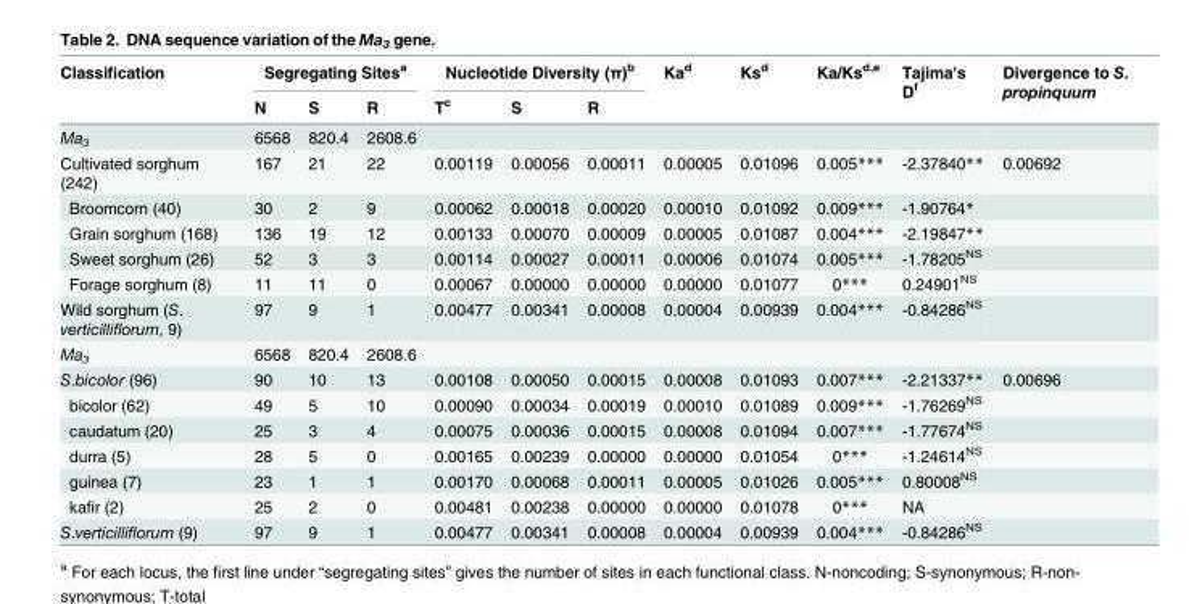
<table><thead><tr><td rowspan="2">Classification</td><td colspan="3">Segregating Sites<sup>a</sup></td><td colspan="3">Nucleotide Diversity (π)<sup>b</sup></td><td rowspan="2">Ka<sup>d</sup></td><td rowspan="2">Ks<sup>d</sup></td><td rowspan="2">Ka/Ks<sup>d,e</sup></td><td rowspan="2">Tajima&#x27;s D<sup>f</sup></td><td rowspan="2">Divergence to S. propinquum</td></tr><tr><td>N</td><td>S</td><td>R</td><td>T<sup>c</sup></td><td>S</td><td>R</td></tr></thead><tbody><tr><td>Ma<sub>3</sub></td><td>6568</td><td>820.4</td><td>2608.6</td><td></td><td></td><td></td><td></td><td></td><td></td><td></td><td></td></tr><tr><td>Cultivated sorghum (242)</td><td>167</td><td>21</td><td>22</td><td>0.00119</td><td>0.00056</td><td>0.00011</td><td>0.00005</td><td>0.01096</td><td>0.005***</td><td>-2.37840**</td><td>0.00692</td></tr><tr><td>Broomcorn (40)</td><td>30</td><td>2</td><td>9</td><td>0.00062</td><td>0.00018</td><td>0.00020</td><td>0.00010</td><td>0.01092</td><td>0.009***</td><td>-1.90764*</td><td></td></tr><tr><td>Grain sorghum (168)</td><td>136</td><td>19</td><td>12</td><td>0.00133</td><td>0.00070</td><td>0.00009</td><td>0.00005</td><td>0.01087</td><td>0.004***</td><td>-2.19847**</td><td></td></tr><tr><td>Sweet sorghum (26)</td><td>52</td><td>3</td><td>3</td><td>0.00114</td><td>0.00027</td><td>0.00011</td><td>0.00006</td><td>0.01074</td><td>0.005***</td><td>-1.78205<sup>NS</sup></td><td></td></tr><tr><td>Forage sorghum (8)</td><td>11</td><td>11</td><td>0</td><td>0.00067</td><td>0.00000</td><td>0.00000</td><td>0.00000</td><td>0.01077</td><td>0***</td><td>0.24901<sup>NS</sup></td><td></td></tr><tr><td>Wild sorghum (S. verticilliflorum, 9)</td><td>97</td><td>9</td><td>1</td><td>0.00477</td><td>0.00341</td><td>0.00008</td><td>0.00004</td><td>0.00939</td><td>0.004***</td><td>-0.84286<sup>NS</sup></td><td></td></tr><tr><td>Ma<sub>3</sub></td><td>6568</td><td>820.4</td><td>2608.6</td><td></td><td></td><td></td><td></td><td></td><td></td><td></td><td></td></tr><tr><td>S.bicolor (96)</td><td>90</td><td>10</td><td>13</td><td>0.00108</td><td>0.00050</td><td>0.00015</td><td>0.00008</td><td>0.01093</td><td>0.007***</td><td>-2.21337**</td><td>0.00696</td></tr><tr><td>bicolor (62)</td><td>49</td><td>5</td><td>10</td><td>0.00090</td><td>0.00034</td><td>0.00019</td><td>0.00010</td><td>0.01089</td><td>0.009***</td><td>-1.76269<sup>NS</sup></td><td></td></tr><tr><td>caudatum (20)</td><td>25</td><td>3</td><td>4</td><td>0.00075</td><td>0.00036</td><td>0.00015</td><td>0.00008</td><td>0.01094</td><td>0.007***</td><td>-1.77674<sup>NS</sup></td><td></td></tr><tr><td>durra (5)</td><td>28</td><td>5</td><td>0</td><td>0.00165</td><td>0.00239</td><td>0.00000</td><td>0.00000</td><td>0.01054</td><td>0***</td><td>-1.24614<sup>NS</sup></td><td></td></tr><tr><td>guinea (7)</td><td>23</td><td>1</td><td>1</td><td>0.00170</td><td>0.00068</td><td>0.00011</td><td>0.00005</td><td>0.01026</td><td>0.005***</td><td>0.80008<sup>NS</sup></td><td></td></tr><tr><td>kafir (2)</td><td>25</td><td>2</td><td>0</td><td>0.00481</td><td>0.00238</td><td>0.00000</td><td>0.00000</td><td>0.01078</td><td>0***</td><td>NA</td><td></td></tr><tr><td>S.verticilliflorum (9)</td><td>97</td><td>9</td><td>1</td><td>0.00477</td><td>0.00341</td><td>0.00008</td><td>0.00004</td><td>0.00939</td><td>0.004***</td><td>-0.84286<sup>NS</sup></td><td></td></tr></tbody></table>